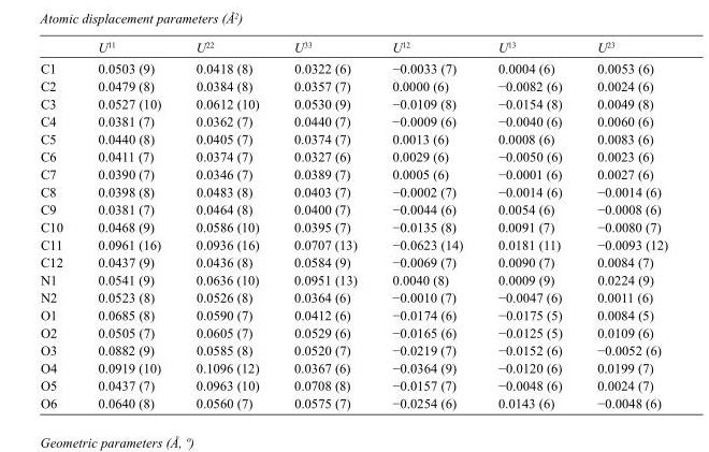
<table><thead><tr><td></td><td>U<sup>11</sup></td><td>U<sup>22</sup></td><td>U<sup>33</sup></td><td>U<sup>12</sup></td><td>U<sup>13</sup></td><td>U<sup>23</sup></td></tr></thead><tbody><tr><td>C1</td><td>0.0503 (9)</td><td>0.0418 (8)</td><td>0.0322 (6)</td><td>−0.0033 (7)</td><td>0.0004 (6)</td><td>0.0053 (6)</td></tr><tr><td>C2</td><td>0.0479 (8)</td><td>0.0384 (8)</td><td>0.0357 (7)</td><td>0.0000 (6)</td><td>−0.0082 (6)</td><td>0.0024 (6)</td></tr><tr><td>C3</td><td>0.0527 (10)</td><td>0.0612 (10)</td><td>0.0530 (9)</td><td>−0.0109 (8)</td><td>−0.0154 (8)</td><td>0.0049 (8)</td></tr><tr><td>C4</td><td>0.0381 (7)</td><td>0.0362 (7)</td><td>0.0440 (7)</td><td>−0.0009 (6)</td><td>−0.0040 (6)</td><td>0.0060 (6)</td></tr><tr><td>C5</td><td>0.0440 (8)</td><td>0.0405 (7)</td><td>0.0374 (7)</td><td>0.0013 (6)</td><td>0.0008 (6)</td><td>0.0083 (6)</td></tr><tr><td>C6</td><td>0.0411 (7)</td><td>0.0374 (7)</td><td>0.0327 (6)</td><td>0.0029 (6)</td><td>−0.0050 (6)</td><td>0.0023 (6)</td></tr><tr><td>C7</td><td>0.0390 (7)</td><td>0.0346 (7)</td><td>0.0389 (7)</td><td>0.0005 (6)</td><td>−0.0001 (6)</td><td>0.0027 (6)</td></tr><tr><td>C8</td><td>0.0398 (8)</td><td>0.0483 (8)</td><td>0.0403 (7)</td><td>−0.0002 (7)</td><td>−0.0014 (6)</td><td>−0.0014 (6)</td></tr><tr><td>C9</td><td>0.0381 (7)</td><td>0.0464 (8)</td><td>0.0400 (7)</td><td>−0.0044 (6)</td><td>0.0054 (6)</td><td>−0.0008 (6)</td></tr><tr><td>C10</td><td>0.0468 (9)</td><td>0.0586 (10)</td><td>0.0395 (7)</td><td>−0.0135 (8)</td><td>0.0091 (7)</td><td>−0.0080 (7)</td></tr><tr><td>C11</td><td>0.0961 (16)</td><td>0.0936 (16)</td><td>0.0707 (13)</td><td>−0.0623 (14)</td><td>0.0181 (11)</td><td>−0.0093 (12)</td></tr><tr><td>C12</td><td>0.0437 (9)</td><td>0.0436 (8)</td><td>0.0584 (9)</td><td>−0.0069 (7)</td><td>0.0090 (7)</td><td>0.0084 (7)</td></tr><tr><td>N1</td><td>0.0541 (9)</td><td>0.0636 (10)</td><td>0.0951 (13)</td><td>0.0040 (8)</td><td>0.0009 (9)</td><td>0.0224 (9)</td></tr><tr><td>N2</td><td>0.0523 (8)</td><td>0.0526 (8)</td><td>0.0364 (6)</td><td>−0.0010 (7)</td><td>−0.0047 (6)</td><td>0.0011 (6)</td></tr><tr><td>O1</td><td>0.0685 (8)</td><td>0.0590 (7)</td><td>0.0412 (6)</td><td>−0.0174 (6)</td><td>−0.0175 (5)</td><td>0.0084 (5)</td></tr><tr><td>O2</td><td>0.0505 (7)</td><td>0.0605 (7)</td><td>0.0529 (6)</td><td>−0.0165 (6)</td><td>−0.0125 (5)</td><td>0.0109 (6)</td></tr><tr><td>O3</td><td>0.0882 (9)</td><td>0.0585 (8)</td><td>0.0520 (7)</td><td>−0.0219 (7)</td><td>−0.0152 (6)</td><td>−0.0052 (6)</td></tr><tr><td>O4</td><td>0.0919 (10)</td><td>0.1096 (12)</td><td>0.0367 (6)</td><td>−0.0364 (9)</td><td>−0.0120 (6)</td><td>0.0199 (7)</td></tr><tr><td>O5</td><td>0.0437 (7)</td><td>0.0963 (10)</td><td>0.0708 (8)</td><td>−0.0157 (7)</td><td>−0.0048 (6)</td><td>0.0024 (7)</td></tr><tr><td>O6</td><td>0.0640 (8)</td><td>0.0560 (7)</td><td>0.0575 (7)</td><td>−0.0254 (6)</td><td>0.0143 (6)</td><td>−0.0048 (6)</td></tr></tbody></table>